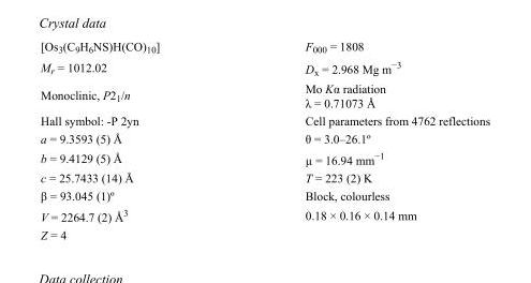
<table><tbody><tr><td>[Os<sub>3</sub>(C<sub>9</sub>H<sub>6</sub>NS)H(CO)<sub>10</sub>]</td><td>F<sub>000</sub> = 1808</td></tr><tr><td>M<sub>r</sub> = 1012.02</td><td>D<sub>x</sub> = 2.968 Mg m<sup>−3</sup></td></tr><tr><td>Monoclinic, P2<sub>1</sub>/n</td><td>Mo Kα radiation λ = 0.71073 Å</td></tr><tr><td>Hall symbol: -P 2yn</td><td>Cell parameters from 4762 reflections</td></tr><tr><td>a = 9.3593 (5) Å</td><td>θ = 3.0–26.1º</td></tr><tr><td>b = 9.4129 (5) Å</td><td>µ = 16.94 mm<sup>−1</sup></td></tr><tr><td>c = 25.7433 (14) Å</td><td>T = 223 (2) K</td></tr><tr><td>β = 93.045 (1)º</td><td>Block, colourless</td></tr><tr><td>V = 2264.7 (2) Å<sup>3</sup></td><td>0.18 × 0.16 × 0.14 mm</td></tr><tr><td>Z = 4</td><td></td></tr></tbody></table>